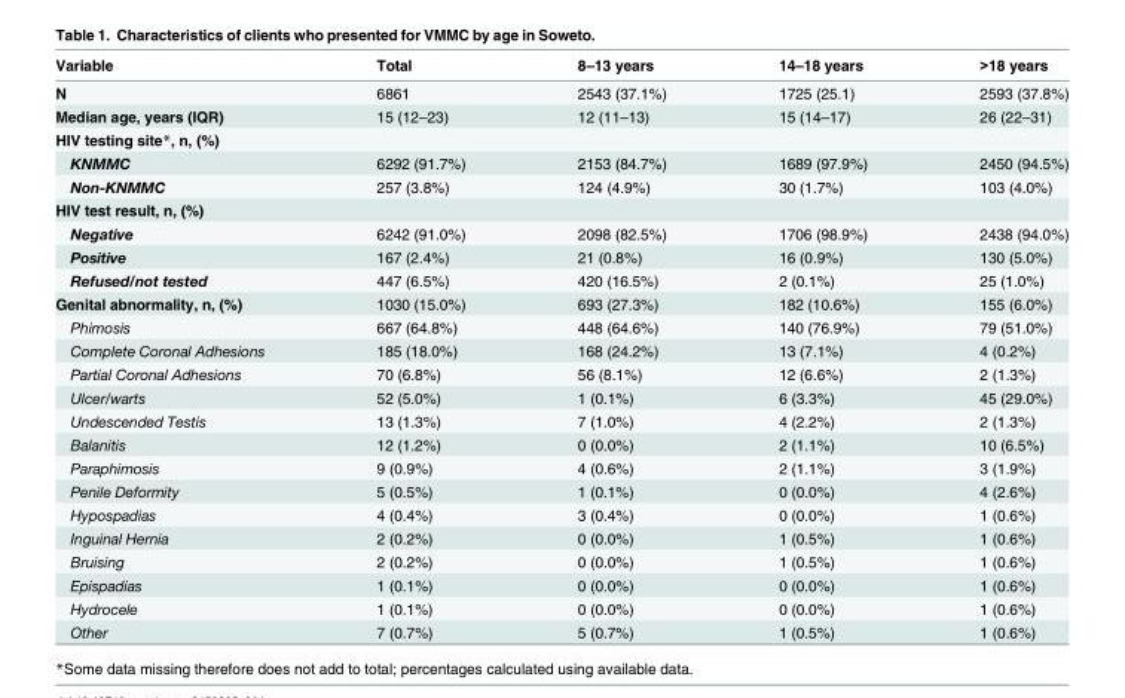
<table><thead><tr><td>Variable</td><td>Total</td><td>8–13 years</td><td>14–18 years</td><td>&gt;18 years</td></tr></thead><tbody><tr><td>N</td><td>6861</td><td>2543 (37.1%)</td><td>1725 (25.1)</td><td>2593 (37.8%)</td></tr><tr><td>Median age, years (IQR)</td><td>15 (12–23)</td><td>12 (11–13)</td><td>15 (14–17)</td><td>26 (22–31)</td></tr><tr><td colspan="5">HIV testing site*, n, (%)</td></tr><tr><td>KNMMC</td><td>6292 (91.7%)</td><td>2153 (84.7%)</td><td>1689 (97.9%)</td><td>2450 (94.5%)</td></tr><tr><td>Non-KNMMC</td><td>257 (3.8%)</td><td>124 (4.9%)</td><td>30 (1.7%)</td><td>103 (4.0%)</td></tr><tr><td colspan="5">HIV test result, n, (%)</td></tr><tr><td>Negative</td><td>6242 (91.0%)</td><td>2098 (82.5%)</td><td>1706 (98.9%)</td><td>2438 (94.0%)</td></tr><tr><td>Positive</td><td>167 (2.4%)</td><td>21 (0.8%)</td><td>16 (0.9%)</td><td>130 (5.0%)</td></tr><tr><td>Refused/not tested</td><td>447 (6.5%)</td><td>420 (16.5%)</td><td>2 (0.1%)</td><td>25 (1.0%)</td></tr><tr><td>Genital abnormality, n, (%)</td><td>1030 (15.0%)</td><td>693 (27.3%)</td><td>182 (10.6%)</td><td>155 (6.0%)</td></tr><tr><td>Phimosis</td><td>667 (64.8%)</td><td>448 (64.6%)</td><td>140 (76.9%)</td><td>79 (51.0%)</td></tr><tr><td>Complete Coronal Adhesions</td><td>185 (18.0%)</td><td>168 (24.2%)</td><td>13 (7.1%)</td><td>4 (0.2%)</td></tr><tr><td>Partial Coronal Adhesions</td><td>70 (6.8%)</td><td>56 (8.1%)</td><td>12 (6.6%)</td><td>2 (1.3%)</td></tr><tr><td>Ulcer/warts</td><td>52 (5.0%)</td><td>1 (0.1%)</td><td>6 (3.3%)</td><td>45 (29.0%)</td></tr><tr><td>Undescended Testis</td><td>13 (1.3%)</td><td>7 (1.0%)</td><td>4 (2.2%)</td><td>2 (1.3%)</td></tr><tr><td>Balanitis</td><td>12 (1.2%)</td><td>0 (0.0%)</td><td>2 (1.1%)</td><td>10 (6.5%)</td></tr><tr><td>Paraphimosis</td><td>9 (0.9%)</td><td>4 (0.6%)</td><td>2 (1.1%)</td><td>3 (1.9%)</td></tr><tr><td>Penile Deformity</td><td>5 (0.5%)</td><td>1 (0.1%)</td><td>0 (0.0%)</td><td>4 (2.6%)</td></tr><tr><td>Hypospadias</td><td>4 (0.4%)</td><td>3 (0.4%)</td><td>0 (0.0%)</td><td>1 (0.6%)</td></tr><tr><td>Inguinal Hernia</td><td>2 (0.2%)</td><td>0 (0.0%)</td><td>1 (0.5%)</td><td>1 (0.6%)</td></tr><tr><td>Bruising</td><td>2 (0.2%)</td><td>0 (0.0%)</td><td>1 (0.5%)</td><td>1 (0.6%)</td></tr><tr><td>Epispadias</td><td>1 (0.1%)</td><td>0 (0.0%)</td><td>0 (0.0%)</td><td>1 (0.6%)</td></tr><tr><td>Hydrocele</td><td>1 (0.1%)</td><td>0 (0.0%)</td><td>0 (0.0%)</td><td>1 (0.6%)</td></tr><tr><td>Other</td><td>7 (0.7%)</td><td>5 (0.7%)</td><td>1 (0.5%)</td><td>1 (0.6%)</td></tr></tbody></table>